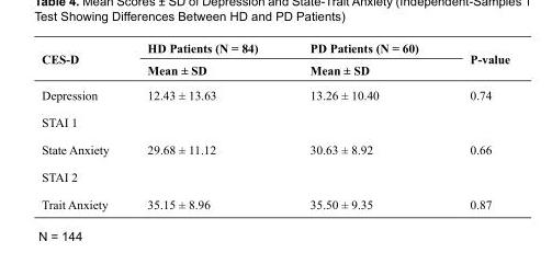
<table><thead><tr><td rowspan="2">CES-D</td><td rowspan="2">HD Patients (N = 84) Mean ± SD</td><td rowspan="2">PD Patients (N = 60) Mean ± SD</td><td rowspan="2">P-value</td></tr><tr></tr></thead><tbody><tr><td>Depression</td><td>12.43 ± 13.63</td><td>13.26 ± 10.40</td><td>0.74</td></tr><tr><td colspan="4">STAI 1</td></tr><tr><td>State Anxiety</td><td>29.68 ± 11.12</td><td>30.63 ± 8.92</td><td>0.66</td></tr><tr><td colspan="4">STAI 2</td></tr><tr><td>Trait Anxiety</td><td>35.15 ± 8.96</td><td>35.50 ± 9.35</td><td>0.87</td></tr></tbody></table>